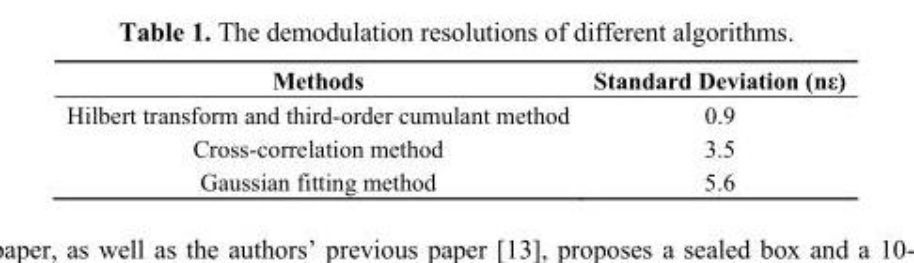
<table><thead><tr><td>Methods</td><td>Standard Deviation (nε)</td></tr></thead><tbody><tr><td>Hilbert transform and third-order cumulant method</td><td>0.9</td></tr><tr><td>Cross-correlation method</td><td>3.5</td></tr><tr><td>Gaussian fitting method</td><td>5.6</td></tr></tbody></table>